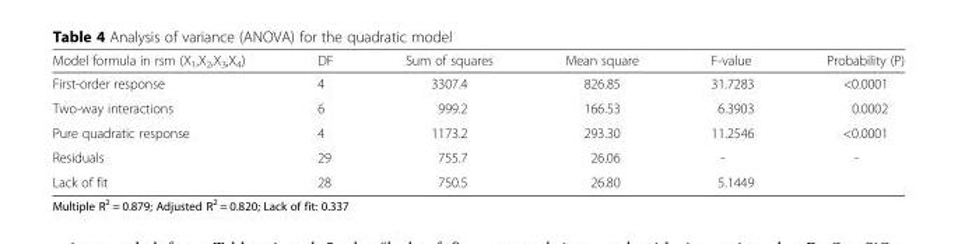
<table><thead><tr><td>Model formula in rsm (X<sub>1</sub>,X<sub>2</sub>,X<sub>3</sub>,X<sub>4</sub>)</td><td>DF</td><td>Sum of squares</td><td>Mean square</td><td>F-value</td><td>Probability (P)</td></tr></thead><tbody><tr><td>First-order response</td><td>4</td><td>3307.4</td><td>826.85</td><td>31.7283</td><td>&lt;0.0001</td></tr><tr><td>Two-way interactions</td><td>6</td><td>999.2</td><td>166.53</td><td>6.3903</td><td>0.0002</td></tr><tr><td>Pure quadratic response</td><td>4</td><td>1173.2</td><td>293.30</td><td>11.2546</td><td>&lt;0.0001</td></tr><tr><td>Residuals</td><td>29</td><td>755.7</td><td>26.06</td><td>-</td><td>-</td></tr><tr><td>Lack of fit</td><td>28</td><td>750.5</td><td>26.80</td><td>5.1449</td><td></td></tr></tbody></table>